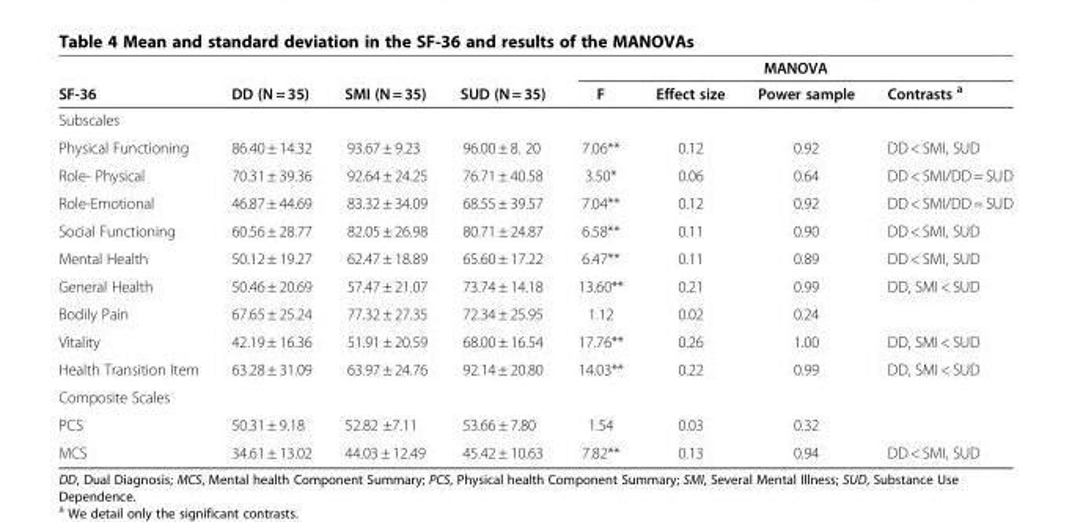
<table><thead><tr><td rowspan="2">SF-36</td><td rowspan="2">DD (N = 35)</td><td rowspan="2">SMI (N = 35)</td><td rowspan="2">SUD (N = 35)</td><td colspan="4">MANOVA</td></tr><tr><td>F</td><td>Effect size</td><td>Power sample</td><td>Contrasts <sup>a</sup></td></tr></thead><tbody><tr><td colspan="8">Subscales</td></tr><tr><td>Physical Functioning</td><td>86.40 ± 14.32</td><td>93.67 ± 9.23</td><td>96.00 ± 8. 20</td><td>7.06**</td><td>0.12</td><td>0.92</td><td>DD &lt; SMI, SUD</td></tr><tr><td>Role- Physical</td><td>70.31 ± 39.36</td><td>92.64 ± 24.25</td><td>76.71 ± 40.58</td><td>3.50*</td><td>0.06</td><td>0.64</td><td>DD &lt; SMI/DD = SUD</td></tr><tr><td>Role-Emotional</td><td>46.87 ± 44.69</td><td>83.32 ± 34.09</td><td>68.55 ± 39.57</td><td>7.04**</td><td>0.12</td><td>0.92</td><td>DD &lt; SMI/DD = SUD</td></tr><tr><td>Social Functioning</td><td>60.56 ± 28.77</td><td>82.05 ± 26.98</td><td>80.71 ± 24.87</td><td>6.58**</td><td>0.11</td><td>0.90</td><td>DD &lt; SMI, SUD</td></tr><tr><td>Mental Health</td><td>50.12 ± 19.27</td><td>62.47 ± 18.89</td><td>65.60 ± 17.22</td><td>6.47**</td><td>0.11</td><td>0.89</td><td>DD &lt; SMI, SUD</td></tr><tr><td>General Health</td><td>50.46 ± 20.69</td><td>57.47 ± 21.07</td><td>73.74 ± 14.18</td><td>13.60**</td><td>0.21</td><td>0.99</td><td>DD, SMI &lt; SUD</td></tr><tr><td>Bodily Pain</td><td>67.65 ± 25.24</td><td>77.32 ± 27.35</td><td>72.34 ± 25.95</td><td>1.12</td><td>0.02</td><td>0.24</td><td></td></tr><tr><td>Vitality</td><td>42.19 ± 16.36</td><td>51.91 ± 20.59</td><td>68.00 ± 16.54</td><td>17.76**</td><td>0.26</td><td>1.00</td><td>DD, SMI &lt; SUD</td></tr><tr><td>Health Transition Item</td><td>63.28 ± 31.09</td><td>63.97 ± 24.76</td><td>92.14 ± 20.80</td><td>14.03**</td><td>0.22</td><td>0.99</td><td>DD, SMI &lt; SUD</td></tr><tr><td colspan="8">Composite Scales</td></tr><tr><td>PCS</td><td>50.31 ± 9.18</td><td>52.82 ±7.11</td><td>53.66 ± 7.80</td><td>1.54</td><td>0.03</td><td>0.32</td><td></td></tr><tr><td>MCS</td><td>34.61 ± 13.02</td><td>44.03 ± 12.49</td><td>45.42 ± 10.63</td><td>7.82**</td><td>0.13</td><td>0.94</td><td>DD &lt; SMI, SUD</td></tr></tbody></table>